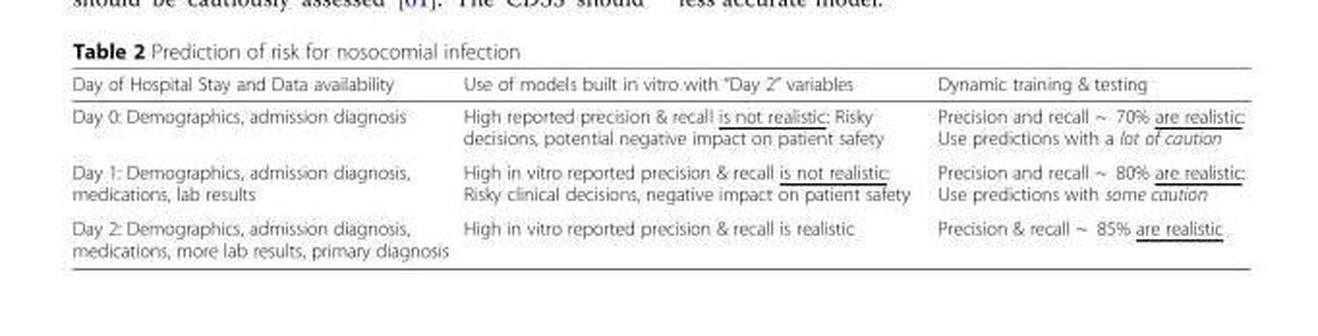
<table><thead><tr><td>Day of Hospital Stay and Data availability</td><td>Use of models built in vitro with “Day 2” variables</td><td>Dynamic training &amp; testing</td></tr></thead><tbody><tr><td>Day 0: Demographics, admission diagnosis</td><td>High reported precision &amp; recall is not realistic: Risky decisions, potential negative impact on patient safety</td><td>Precision and recall ~ 70% are realistic: Use predictions with a lot of caution</td></tr><tr><td>Day 1: Demographics, admission diagnosis, medications, lab results</td><td>High in vitro reported precision &amp; recall is not realistic: Risky clinical decisions, negative impact on patient safety</td><td>Precision and recall ~ 80% are realistic: Use predictions with some caution</td></tr><tr><td>Day 2: Demographics, admission diagnosis, medications, more lab results, primary diagnosis</td><td>High in vitro reported precision &amp; recall is realistic</td><td>Precision &amp; recall ~ 85% are realistic</td></tr></tbody></table>